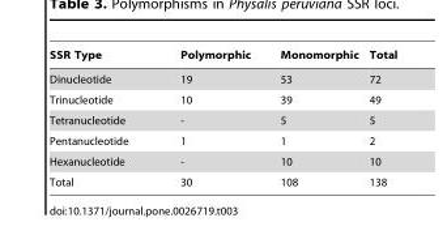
<table><thead><tr><td>SSR Type</td><td>Polymorphic</td><td>Monomorphic</td><td>Total</td></tr></thead><tbody><tr><td>Dinucleotide</td><td>19</td><td>53</td><td>72</td></tr><tr><td>Trinucleotide</td><td>10</td><td>39</td><td>49</td></tr><tr><td>Tetranucleotide</td><td>-</td><td>5</td><td>5</td></tr><tr><td>Pentanucleotide</td><td>1</td><td>1</td><td>2</td></tr><tr><td>Hexanucleotide</td><td>-</td><td>10</td><td>10</td></tr><tr><td>Total</td><td>30</td><td>108</td><td>138</td></tr></tbody></table>